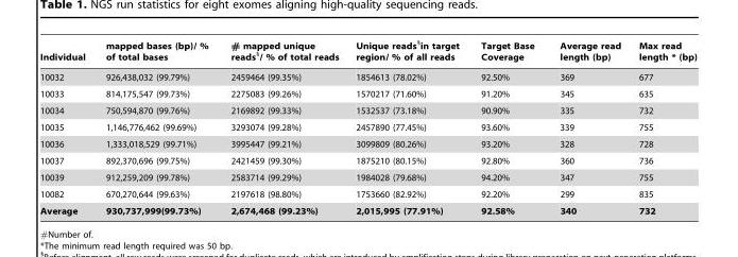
<table><thead><tr><td>Individual</td><td>mapped bases (bp)/ % of total bases</td><td># mapped unique reads§/ % of total reads</td><td>Unique reads§in target region/ % of all reads</td><td>Target Base Coverage</td><td>Average read length (bp)</td><td>Max read length * (bp)</td></tr></thead><tbody><tr><td>10032</td><td>926,438,032 (99.79%)</td><td>2459464 (99.35%)</td><td>1854613 (78.02%)</td><td>92.50%</td><td>369</td><td>677</td></tr><tr><td>10033</td><td>814,175,547 (99.73%)</td><td>2275083 (99.26%)</td><td>1570217 (71.60%)</td><td>91.20%</td><td>345</td><td>635</td></tr><tr><td>10034</td><td>750,594,870 (99.76%)</td><td>2169892 (99.33%)</td><td>1532537 (73.18%)</td><td>90.90%</td><td>335</td><td>732</td></tr><tr><td>10035</td><td>1,146,776,462 (99.69%)</td><td>3293074 (99.28%)</td><td>2457890 (77.45%)</td><td>93.60%</td><td>339</td><td>755</td></tr><tr><td>10036</td><td>1,333,018,529 (99.71%)</td><td>3995447 (99.21%)</td><td>3099809 (80.26%)</td><td>93.20%</td><td>328</td><td>728</td></tr><tr><td>10037</td><td>892,370,696 (99.75%)</td><td>2421459 (99.30%)</td><td>1875210 (80.15%)</td><td>92.80%</td><td>360</td><td>736</td></tr><tr><td>10039</td><td>912,259,209 (99.78%)</td><td>2583714 (99.29%)</td><td>1984028 (79.68%)</td><td>94.20%</td><td>347</td><td>755</td></tr><tr><td>10082</td><td>670,270,644 (99.63%)</td><td>2197618 (98.80%)</td><td>1753660 (82.92%)</td><td>92.20%</td><td>299</td><td>835</td></tr><tr><td>Average</td><td>930,737,999(99.73%)</td><td>2,674,468 (99.23%)</td><td>2,015,995 (77.91%)</td><td>92.58%</td><td>340</td><td>732</td></tr></tbody></table>